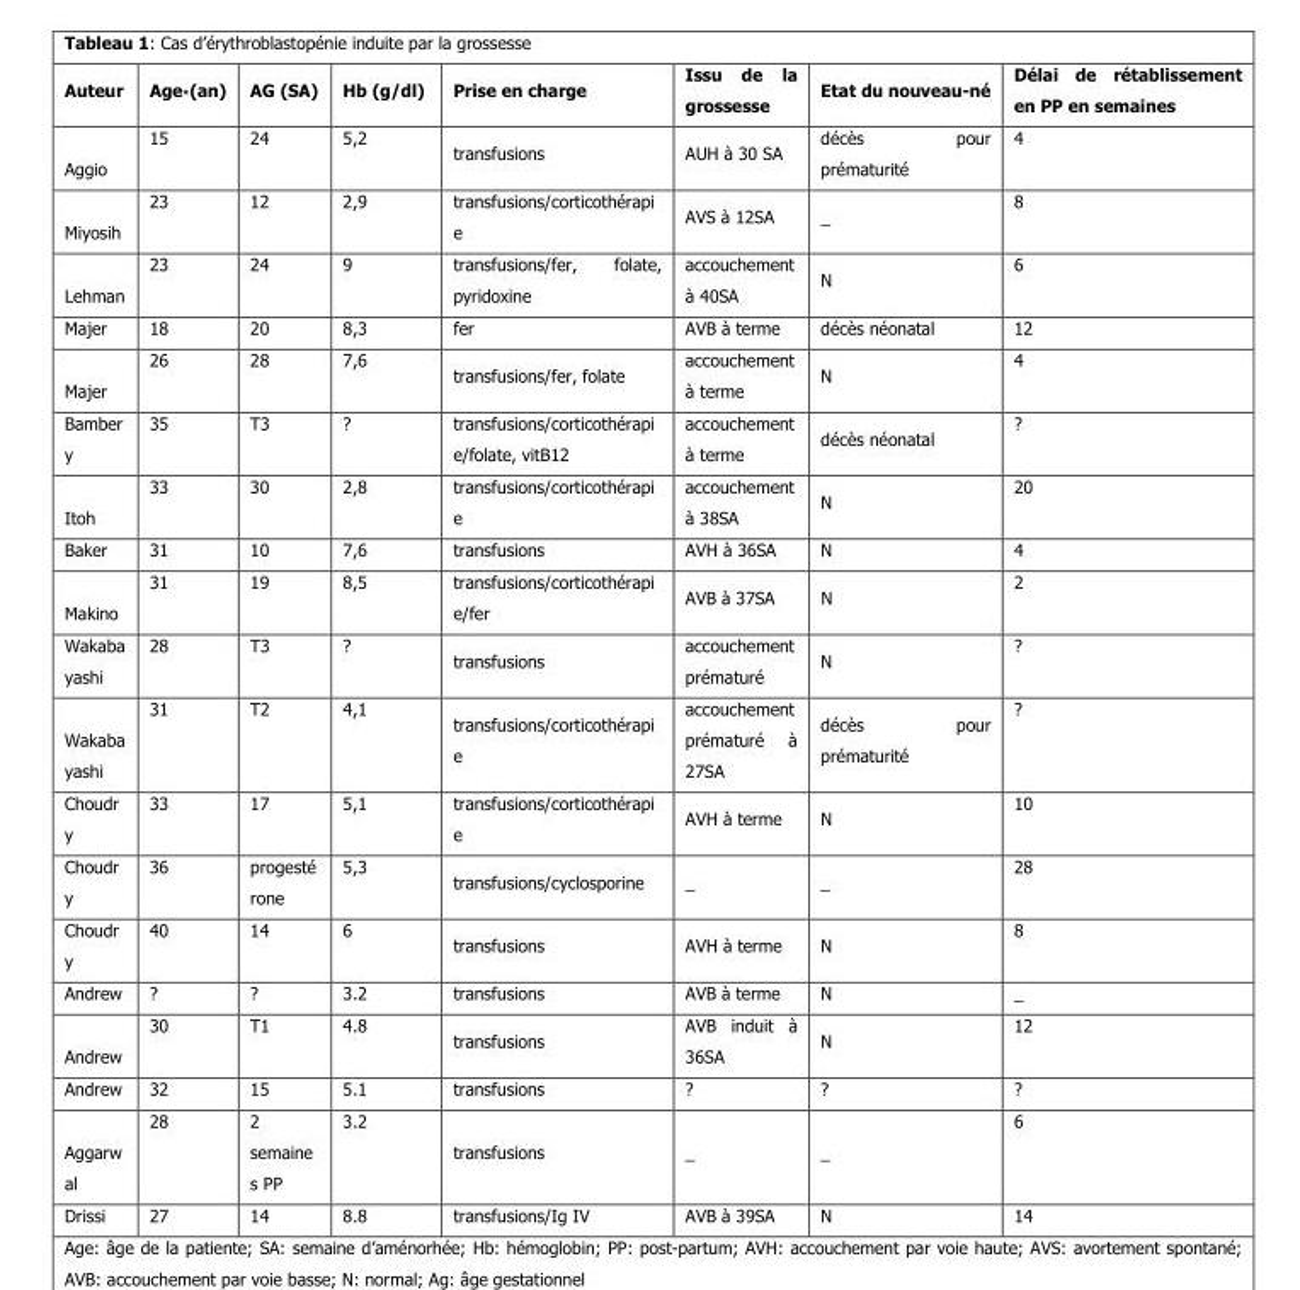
<table><thead><tr><td>Auteur</td><td>Age<sub>*</sub>(an)</td><td>AG (SA)</td><td>Hb (g/dl)</td><td>Prise en charge</td><td>Issu de la grossesse</td><td>Etat du nouveau-né</td><td>Délai de rétablissement en PP en semaines</td></tr></thead><tbody><tr><td>Aggio</td><td>15</td><td>24</td><td>5,2</td><td>transfusions</td><td>AUH à 30 SA</td><td>décès pour prématurité</td><td>4</td></tr><tr><td>Miyosih</td><td>23</td><td>12</td><td>2,9</td><td>transfusions/corticothérapi e</td><td>AVS à 12SA</td><td>_</td><td>8</td></tr><tr><td>Lehman</td><td>23</td><td>24</td><td>9</td><td>transfusions/fer, folate, pyridoxine</td><td>accouchement à 40SA</td><td>N</td><td>6</td></tr><tr><td>Majer</td><td>18</td><td>20</td><td>8,3</td><td>fer</td><td>AVB à terme</td><td>décès néonatal</td><td>12</td></tr><tr><td>Majer</td><td>26</td><td>28</td><td>7,6</td><td>transfusions/fer, folate</td><td>accouchement à terme</td><td>N</td><td>4</td></tr><tr><td>Bamber y</td><td>35</td><td>T3</td><td>?</td><td>transfusions/corticothérapi e/folate, vitB12</td><td>accouchement à terme</td><td>décès néonatal</td><td>?</td></tr><tr><td>Itoh</td><td>33</td><td>30</td><td>2,8</td><td>transfusions/corticothérapi e</td><td>accouchement à 38SA</td><td>N</td><td>20</td></tr><tr><td>Baker</td><td>31</td><td>10</td><td>7,6</td><td>transfusions</td><td>AVH à 36SA</td><td>N</td><td>4</td></tr><tr><td>Makino</td><td>31</td><td>19</td><td>8,5</td><td>transfusions/corticothérapi e/fer</td><td>AVB à 37SA</td><td>N</td><td>2</td></tr><tr><td>Wakaba yashi</td><td>28</td><td>T3</td><td>?</td><td>transfusions</td><td>accouchement prématuré</td><td>N</td><td>?</td></tr><tr><td>Wakaba yashi</td><td>31</td><td>T2</td><td>4,1</td><td>transfusions/corticothérapi e</td><td>accouchement prématuré à 27SA</td><td>décès pour prématurité</td><td>?</td></tr><tr><td>Choudr y</td><td>33</td><td>17</td><td>5,1</td><td>transfusions/corticothérapi e</td><td>AVH à terme</td><td>N</td><td>10</td></tr><tr><td>Choudr y</td><td>36</td><td>progesté rone</td><td>5,3</td><td>transfusions/cyclosporine</td><td>_</td><td>_</td><td>28</td></tr><tr><td>Choudr y</td><td>40</td><td>14</td><td>6</td><td>transfusions</td><td>AVH à terme</td><td>N</td><td>8</td></tr><tr><td>Andrew</td><td>?</td><td>?</td><td>3.2</td><td>transfusions</td><td>AVB à terme</td><td>N</td><td>_</td></tr><tr><td>Andrew</td><td>30</td><td>T1</td><td>4.8</td><td>transfusions</td><td>AVB induit à 36SA</td><td>N</td><td>12</td></tr><tr><td>Andrew</td><td>32</td><td>15</td><td>5.1</td><td>transfusions</td><td>?</td><td>?</td><td>?</td></tr><tr><td>Aggarw al</td><td>28</td><td>2 semaine s PP</td><td>3.2</td><td>transfusions</td><td>_</td><td>_</td><td>6</td></tr><tr><td>Drissi</td><td>27</td><td>14</td><td>8.8</td><td>transfusions/Ig IV</td><td>AVB à 39SA</td><td>N</td><td>14</td></tr></tbody></table>